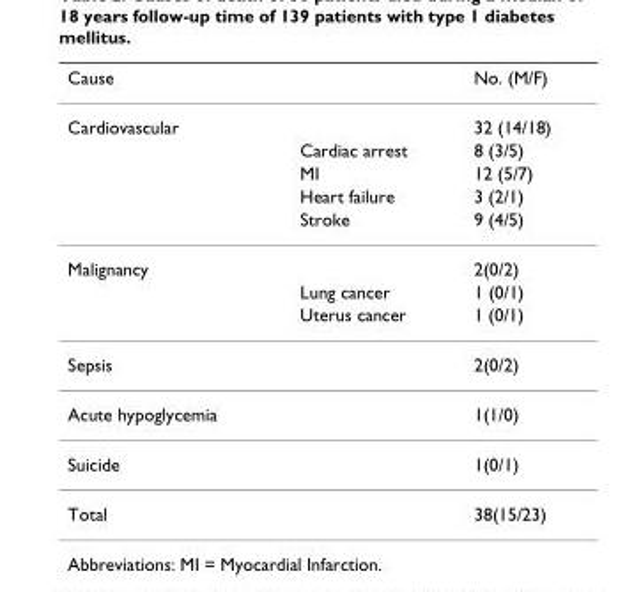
<table><thead><tr><td>Cause</td><td></td><td>No. (M/F)</td></tr></thead><tbody><tr><td rowspan="5">Cardiovascular</td><td></td><td>32 (14/18)</td></tr><tr><td>Cardiac arrest</td><td>8 (3/5)</td></tr><tr><td>MI</td><td>12 (5/7)</td></tr><tr><td>Heart failure</td><td>3 (2/1)</td></tr><tr><td>Stroke</td><td>9 (4/5)</td></tr><tr><td rowspan="3">Malignancy</td><td></td><td>2(0/2)</td></tr><tr><td>Lung cancer</td><td>1 (0/1)</td></tr><tr><td>Uterus cancer</td><td>1 (0/1)</td></tr><tr><td>Sepsis</td><td></td><td>2(0/2)</td></tr><tr><td>Acute hypoglycemia</td><td></td><td>1(1/0)</td></tr><tr><td>Suicide</td><td></td><td>1(0/1)</td></tr><tr><td>Total</td><td></td><td>38(15/23)</td></tr></tbody></table>